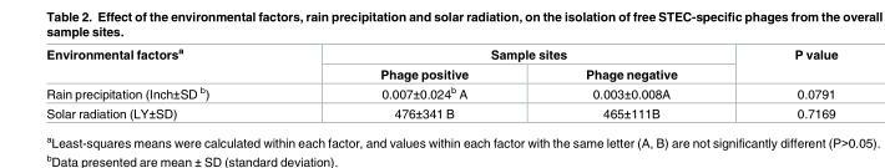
<table><thead><tr><td rowspan="2">Environmental factors<sup>a</sup></td><td colspan="2">Sample sites</td><td rowspan="2">P value</td></tr><tr><td>Phage positive</td><td>Phage negative</td></tr></thead><tbody><tr><td>Rain precipitation (Inch±SD <sup>b</sup>)</td><td>0.007±0.024<sup>b</sup> A</td><td>0.003±0.008A</td><td>0.0791</td></tr><tr><td>Solar radiation (LY±SD)</td><td>476±341 B</td><td>465±111B</td><td>0.7169</td></tr></tbody></table>